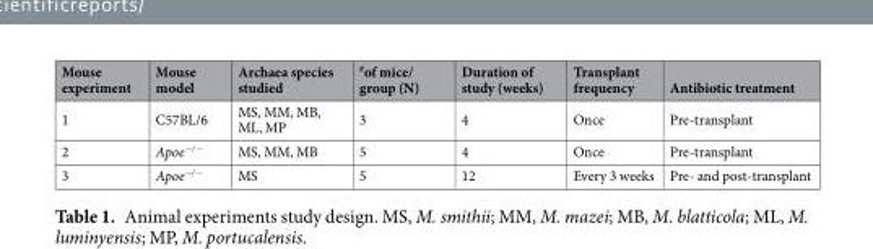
<table><thead><tr><td>Mouse experiment</td><td>Mouse model</td><td>Archaea species studied</td><td><sup>#</sup>of mice/ group (N)</td><td>Duration of study (weeks)</td><td>Transplant frequency</td><td>Antibiotic treatment</td></tr></thead><tbody><tr><td>1</td><td>C57BL/6</td><td>MS, MM, MB, ML, MP</td><td>3</td><td>4</td><td>Once</td><td>Pre-transplant</td></tr><tr><td>2</td><td>Apoe<sup>−/−</sup></td><td>MS, MM, MB</td><td>5</td><td>4</td><td>Once</td><td>Pre-transplant</td></tr><tr><td>3</td><td>Apoe<sup>−/−</sup></td><td>MS</td><td>5</td><td>12</td><td>Every 3 weeks</td><td>Pre- and post-transplant</td></tr></tbody></table>